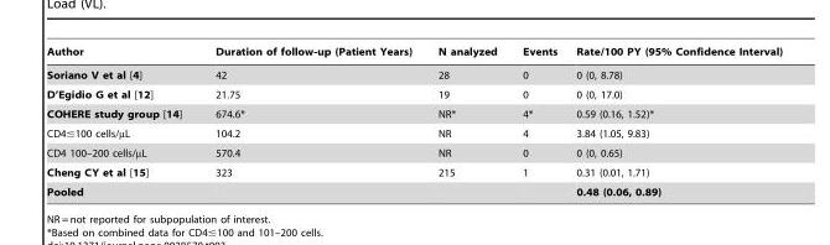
<table><thead><tr><td>Author</td><td>Duration of follow-up (Patient Years)</td><td>N analyzed</td><td>Events</td><td>Rate/100 PY (95% Confidence Interval)</td></tr></thead><tbody><tr><td>Soriano V et al [4]</td><td>42</td><td>28</td><td>0</td><td>0 (0, 8.78)</td></tr><tr><td>D’Egidio G et al [12]</td><td>21.75</td><td>19</td><td>0</td><td>0 (0, 17.0)</td></tr><tr><td>COHERE study group [14]</td><td>674.6*</td><td>NR*</td><td>4*</td><td>0.59 (0.16, 1.52)*</td></tr><tr><td>CD4≤100 cells/µL</td><td>104.2</td><td>NR</td><td>4</td><td>3.84 (1.05, 9.83)</td></tr><tr><td>CD4 100–200 cells/µL</td><td>570.4</td><td>NR</td><td>0</td><td>0 (0, 0.65)</td></tr><tr><td>Cheng CY et al [15]</td><td>323</td><td>215</td><td>1</td><td>0.31 (0.01, 1.71)</td></tr><tr><td>Pooled</td><td></td><td></td><td></td><td>0.48 (0.06, 0.89)</td></tr></tbody></table>